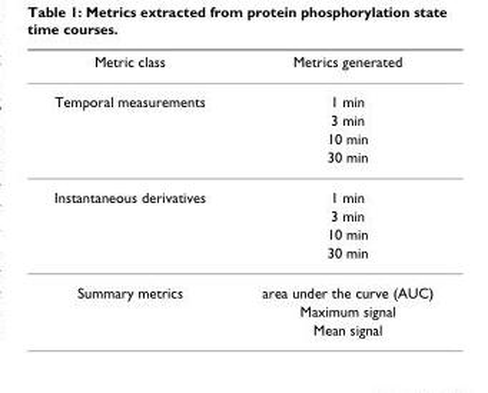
<table><thead><tr><td>Metric class</td><td>Metrics generated</td></tr></thead><tbody><tr><td rowspan="4">Temporal measurements</td><td>1 min</td></tr><tr><td>3 min</td></tr><tr><td>10 min</td></tr><tr><td>30 min</td></tr><tr><td rowspan="4">Instantaneous derivatives</td><td>1 min</td></tr><tr><td>3 min</td></tr><tr><td>10 min</td></tr><tr><td>30 min</td></tr><tr><td rowspan="3">Summary metrics</td><td>area under the curve (AUC)</td></tr><tr><td>Maximum signal</td></tr><tr><td>Mean signal</td></tr></tbody></table>